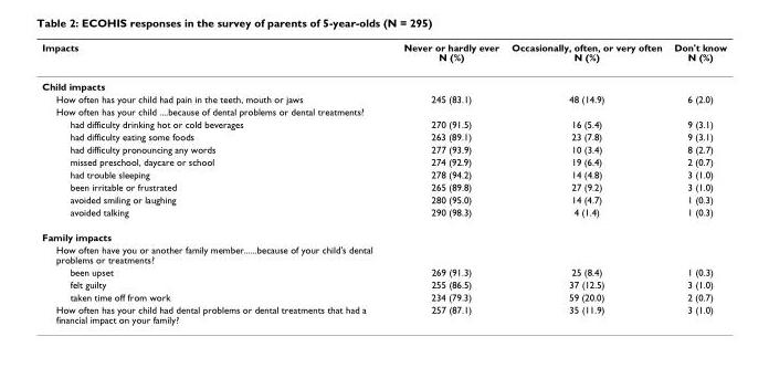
<table><thead><tr><td>Impacts</td><td>Never or hardly ever N (%)</td><td>Occasionally, often, or very often N (%)</td><td>Don&#x27;t know N (%)</td></tr></thead><tbody><tr><td colspan="4">Child impacts</td></tr><tr><td>How often has your child had pain in the teeth, mouth or jaws</td><td>245 (83.1)</td><td>48 (14.9)</td><td>6 (2.0)</td></tr><tr><td colspan="4">How often has your child ....because of dental problems or dental treatments?</td></tr><tr><td>had difficulty drinking hot or cold beverages</td><td>270 (91.5)</td><td>16 (5.4)</td><td>9 (3.1)</td></tr><tr><td>had difficulty eating some foods</td><td>263 (89.1)</td><td>23 (7.8)</td><td>9 (3.1)</td></tr><tr><td>had difficulty pronouncing any words</td><td>277 (93.9)</td><td>10 (3.4)</td><td>8 (2.7)</td></tr><tr><td>missed preschool, daycare or school</td><td>274 (92.9)</td><td>19 (6.4)</td><td>2 (0.7)</td></tr><tr><td>had trouble sleeping</td><td>278 (94.2)</td><td>14 (4.8)</td><td>3 (1.0)</td></tr><tr><td>been irritable or frustrated</td><td>265 (89.8)</td><td>27 (9.2)</td><td>3 (1.0)</td></tr><tr><td>avoided smiling or laughing</td><td>280 (95.0)</td><td>14 (4.7)</td><td>1 (0.3)</td></tr><tr><td>avoided talking</td><td>290 (98.3)</td><td>4 (1.4)</td><td>1 (0.3)</td></tr><tr><td colspan="4">Family impacts</td></tr><tr><td colspan="4">How often have you or another family member......because of your child&#x27;s dental problems or treatments?</td></tr><tr><td>been upset</td><td>269 (91.3)</td><td>25 (8.4)</td><td>1 (0.3)</td></tr><tr><td>felt guilty</td><td>255 (86.5)</td><td>37 (12.5)</td><td>3 (1.0)</td></tr><tr><td>taken time off from work</td><td>234 (79.3)</td><td>59 (20.0)</td><td>2 (0.7)</td></tr><tr><td>How often has your child had dental problems or dental treatments that had a financial impact on your family?</td><td>257 (87.1)</td><td>35 (11.9)</td><td>3 (1.0)</td></tr></tbody></table>